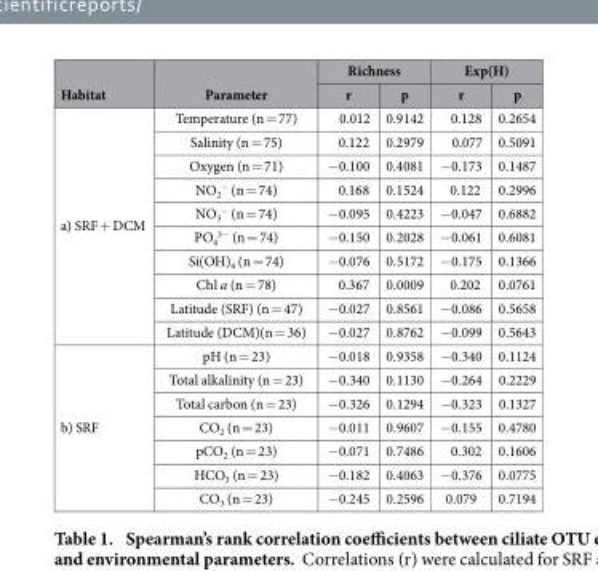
<table><thead><tr><td rowspan="2">Habitat</td><td rowspan="2">Parameter</td><td colspan="2">Richness</td><td colspan="2">Exp(H)</td></tr><tr><td>r</td><td>p</td><td>r</td><td>p</td></tr></thead><tbody><tr><td rowspan="10">a) SRF + DCM</td><td>Temperature (n = 77)</td><td>0.012</td><td>0.9142</td><td>0.128</td><td>0.2654</td></tr><tr><td>Salinity (n = 75)</td><td>0.122</td><td>0.2979</td><td>0.077</td><td>0.5091</td></tr><tr><td>Oxygen (n = 71)</td><td>− 0.100</td><td>0.4081</td><td>− 0.173</td><td>0.1487</td></tr><tr><td>NO<sub>2</sub> <sup>−</sup> (n = 74)</td><td>0.168</td><td>0.1524</td><td>0.122</td><td>0.2996</td></tr><tr><td>NO<sub>3</sub> <sup>−</sup> (n = 74)</td><td>− 0.095</td><td>0.4223</td><td>− 0.047</td><td>0.6882</td></tr><tr><td>PO<sub>4</sub> <sup>3−</sup> (n = 74)</td><td>− 0.150</td><td>0.2028</td><td>− 0.061</td><td>0.6081</td></tr><tr><td>Si(OH)<sub>4</sub> (n = 74)</td><td>− 0.076</td><td>0.5172</td><td>− 0.175</td><td>0.1366</td></tr><tr><td>Chl a (n = 78)</td><td>0.367</td><td>0.0009</td><td>0.202</td><td>0.0761</td></tr><tr><td>Latitude (SRF) (n = 47)</td><td>− 0.027</td><td>0.8561</td><td>− 0.086</td><td>0.5658</td></tr><tr><td>Latitude (DCM)(n = 36)</td><td>− 0.027</td><td>0.8762</td><td>− 0.099</td><td>0.5643</td></tr><tr><td rowspan="7">b) SRF</td><td>pH (n = 23)</td><td>− 0.018</td><td>0.9358</td><td>− 0.340</td><td>0.1124</td></tr><tr><td>Total alkalinity (n = 23)</td><td>− 0.340</td><td>0.1130</td><td>− 0.264</td><td>0.2229</td></tr><tr><td>Total carbon (n = 23)</td><td>− 0.326</td><td>0.1294</td><td>− 0.323</td><td>0.1327</td></tr><tr><td>CO<sub>2</sub> (n = 23)</td><td>− 0.011</td><td>0.9607</td><td>− 0.155</td><td>0.4780</td></tr><tr><td>pCO<sub>2</sub> (n = 23)</td><td>− 0.071</td><td>0.7486</td><td>0.302</td><td>0.1606</td></tr><tr><td>HCO<sub>3</sub> (n = 23)</td><td>− 0.182</td><td>0.4063</td><td>− 0.376</td><td>0.0775</td></tr><tr><td>CO<sub>3</sub> (n = 23)</td><td>− 0.245</td><td>0.2596</td><td>0.079</td><td>0.7194</td></tr></tbody></table>